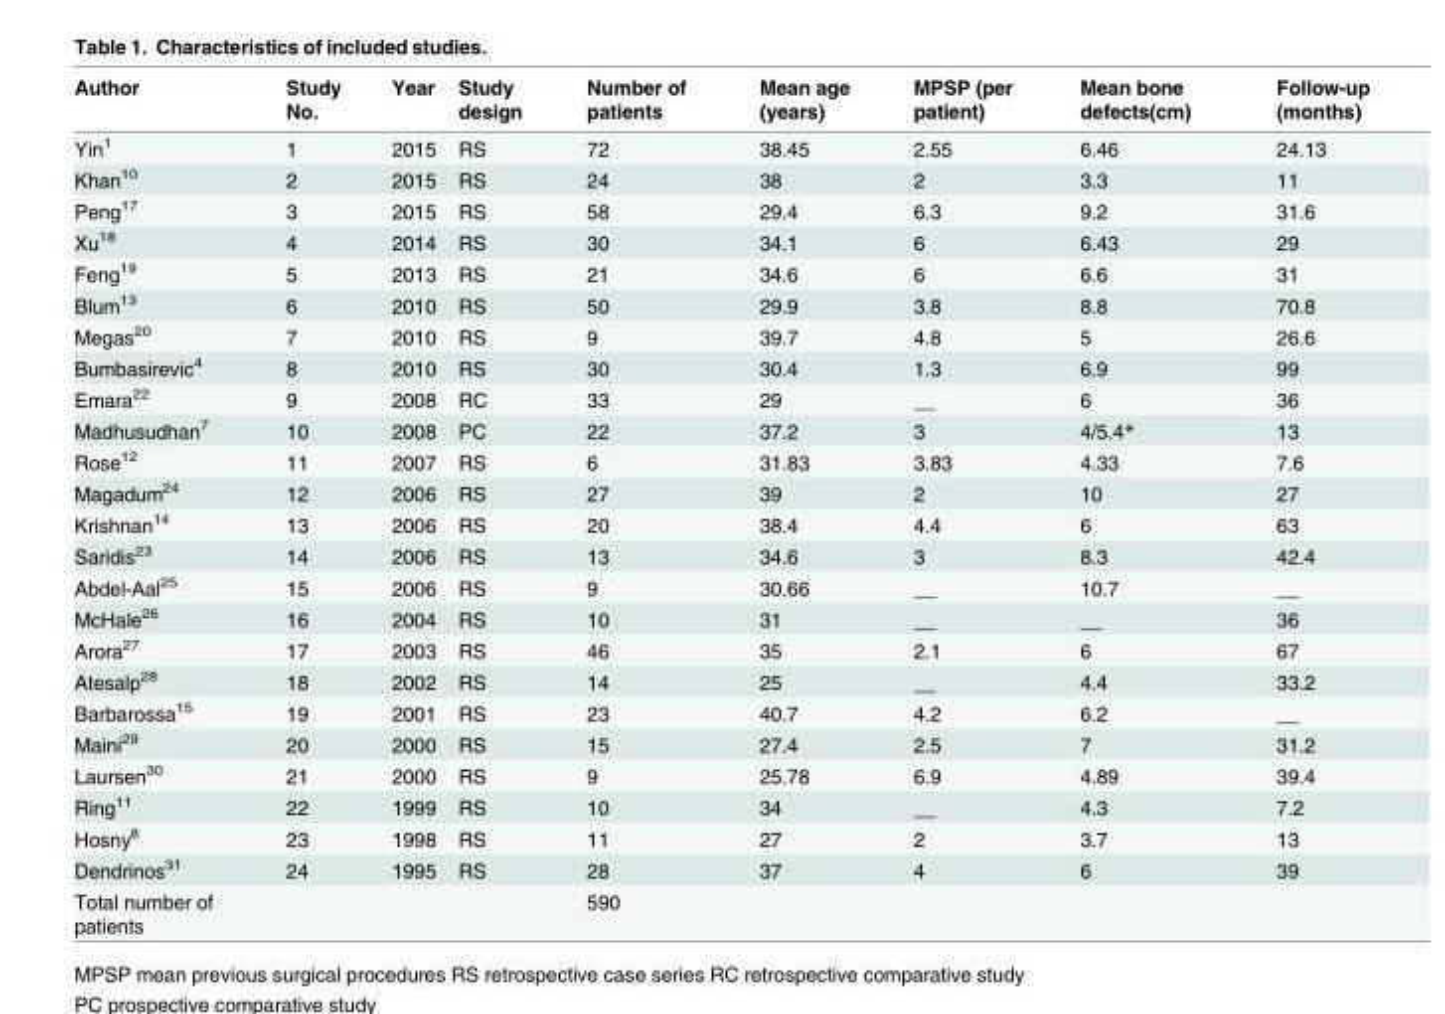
<table><thead><tr><td>Author</td><td>Study No.</td><td>Year</td><td>Study design</td><td>Number of patients</td><td>Mean age (years)</td><td>MPSP (per patient)</td><td>Mean bone defects(cm)</td><td>Follow-up (months)</td></tr></thead><tbody><tr><td>Yin<sup>1</sup></td><td>1</td><td>2015</td><td>RS</td><td>72</td><td>38.45</td><td>2.55</td><td>6.46</td><td>24.13</td></tr><tr><td>Khan<sup>10</sup></td><td>2</td><td>2015</td><td>RS</td><td>24</td><td>38</td><td>2</td><td>3.3</td><td>11</td></tr><tr><td>Peng<sup>17</sup></td><td>3</td><td>2015</td><td>RS</td><td>58</td><td>29.4</td><td>6.3</td><td>9.2</td><td>31.6</td></tr><tr><td>Xu<sup>18</sup></td><td>4</td><td>2014</td><td>RS</td><td>30</td><td>34.1</td><td>6</td><td>6.43</td><td>29</td></tr><tr><td>Feng<sup>19</sup></td><td>5</td><td>2013</td><td>RS</td><td>21</td><td>34.6</td><td>6</td><td>6.6</td><td>31</td></tr><tr><td>Blum<sup>13</sup></td><td>6</td><td>2010</td><td>RS</td><td>50</td><td>29.9</td><td>3.8</td><td>8.8</td><td>70.8</td></tr><tr><td>Megas<sup>20</sup></td><td>7</td><td>2010</td><td>RS</td><td>9</td><td>39.7</td><td>4.8</td><td>5</td><td>26.6</td></tr><tr><td>Bumbasirevic<sup>4</sup></td><td>8</td><td>2010</td><td>RS</td><td>30</td><td>30.4</td><td>1.3</td><td>6.9</td><td>99</td></tr><tr><td>Emara<sup>22</sup></td><td>9</td><td>2008</td><td>RC</td><td>33</td><td>29</td><td>__</td><td>6</td><td>36</td></tr><tr><td>Madhusudhan<sup>7</sup></td><td>10</td><td>2008</td><td>PC</td><td>22</td><td>37.2</td><td>3</td><td>4/5.4*</td><td>13</td></tr><tr><td>Rose<sup>12</sup></td><td>11</td><td>2007</td><td>RS</td><td>6</td><td>31.83</td><td>3.83</td><td>4.33</td><td>7.6</td></tr><tr><td>Magadum<sup>24</sup></td><td>12</td><td>2006</td><td>RS</td><td>27</td><td>39</td><td>2</td><td>10</td><td>27</td></tr><tr><td>Krishnan<sup>14</sup></td><td>13</td><td>2006</td><td>RS</td><td>20</td><td>38.4</td><td>4.4</td><td>6</td><td>63</td></tr><tr><td>Saridis<sup>23</sup></td><td>14</td><td>2006</td><td>RS</td><td>13</td><td>34.6</td><td>3</td><td>8.3</td><td>42.4</td></tr><tr><td>Abdel-Aal<sup>25</sup></td><td>15</td><td>2006</td><td>RS</td><td>9</td><td>30.66</td><td>__</td><td>10.7</td><td>__</td></tr><tr><td>McHale<sup>26</sup></td><td>16</td><td>2004</td><td>RS</td><td>10</td><td>31</td><td>__</td><td>__</td><td>36</td></tr><tr><td>Arora<sup>27</sup></td><td>17</td><td>2003</td><td>RS</td><td>46</td><td>35</td><td>2.1</td><td>6</td><td>67</td></tr><tr><td>Atesalp<sup>28</sup></td><td>18</td><td>2002</td><td>RS</td><td>14</td><td>25</td><td>__</td><td>4.4</td><td>33.2</td></tr><tr><td>Barbarossa<sup>15</sup></td><td>19</td><td>2001</td><td>RS</td><td>23</td><td>40.7</td><td>4.2</td><td>6.2</td><td>__</td></tr><tr><td>Maini<sup>29</sup></td><td>20</td><td>2000</td><td>RS</td><td>15</td><td>27.4</td><td>2.5</td><td>7</td><td>31.2</td></tr><tr><td>Laursen<sup>30</sup></td><td>21</td><td>2000</td><td>RS</td><td>9</td><td>25.78</td><td>6.9</td><td>4.89</td><td>39.4</td></tr><tr><td>Ring<sup>11</sup></td><td>22</td><td>1999</td><td>RS</td><td>10</td><td>34</td><td>__</td><td>4.3</td><td>7.2</td></tr><tr><td>Hosny<sup>8</sup></td><td>23</td><td>1998</td><td>RS</td><td>11</td><td>27</td><td>2</td><td>3.7</td><td>13</td></tr><tr><td>Dendrinos<sup>31</sup></td><td>24</td><td>1995</td><td>RS</td><td>28</td><td>37</td><td>4</td><td>6</td><td>39</td></tr><tr><td>Total number of patients</td><td></td><td></td><td></td><td>590</td><td></td><td></td><td></td><td></td></tr></tbody></table>